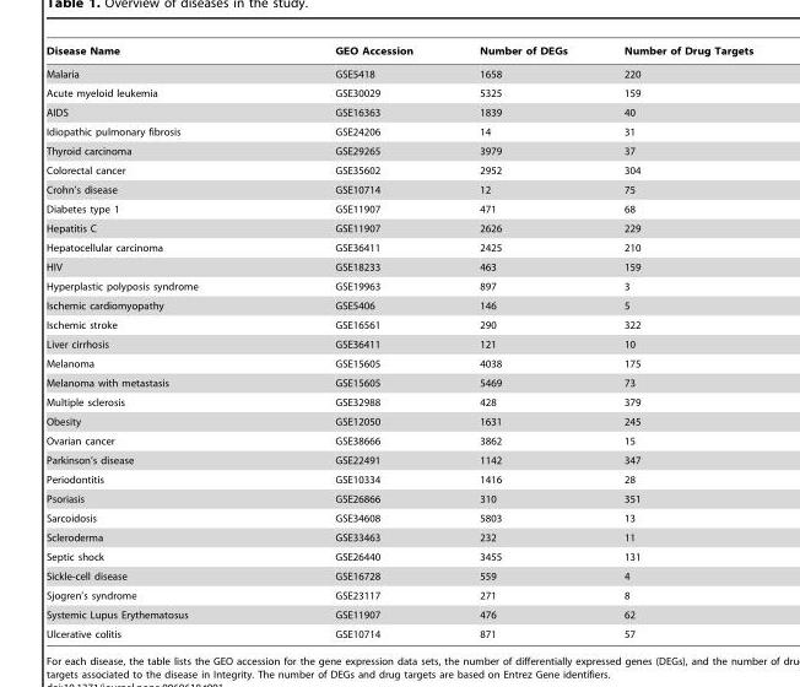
<table><thead><tr><td>Disease Name</td><td>GEO Accession</td><td>Number of DEGs</td><td>Number of Drug Targets</td></tr></thead><tbody><tr><td>Malaria</td><td>GSE5418</td><td>1658</td><td>220</td></tr><tr><td>Acute myeloid leukemia</td><td>GSE30029</td><td>5325</td><td>159</td></tr><tr><td>AIDS</td><td>GSE16363</td><td>1839</td><td>40</td></tr><tr><td>Idiopathic pulmonary fibrosis</td><td>GSE24206</td><td>14</td><td>31</td></tr><tr><td>Thyroid carcinoma</td><td>GSE29265</td><td>3979</td><td>37</td></tr><tr><td>Colorectal cancer</td><td>GSE35602</td><td>2952</td><td>304</td></tr><tr><td>Crohn’s disease</td><td>GSE10714</td><td>12</td><td>75</td></tr><tr><td>Diabetes type 1</td><td>GSE11907</td><td>471</td><td>68</td></tr><tr><td>Hepatitis C</td><td>GSE11907</td><td>2626</td><td>229</td></tr><tr><td>Hepatocellular carcinoma</td><td>GSE36411</td><td>2425</td><td>210</td></tr><tr><td>HIV</td><td>GSE18233</td><td>463</td><td>159</td></tr><tr><td>Hyperplastic polyposis syndrome</td><td>GSE19963</td><td>897</td><td>3</td></tr><tr><td>Ischemic cardiomyopathy</td><td>GSE5406</td><td>146</td><td>5</td></tr><tr><td>Ischemic stroke</td><td>GSE16561</td><td>290</td><td>322</td></tr><tr><td>Liver cirrhosis</td><td>GSE36411</td><td>121</td><td>10</td></tr><tr><td>Melanoma</td><td>GSE15605</td><td>4038</td><td>175</td></tr><tr><td>Melanoma with metastasis</td><td>GSE15605</td><td>5469</td><td>73</td></tr><tr><td>Multiple sclerosis</td><td>GSE32988</td><td>428</td><td>379</td></tr><tr><td>Obesity</td><td>GSE12050</td><td>1631</td><td>245</td></tr><tr><td>Ovarian cancer</td><td>GSE38666</td><td>3862</td><td>15</td></tr><tr><td>Parkinson’s disease</td><td>GSE22491</td><td>1142</td><td>347</td></tr><tr><td>Periodontitis</td><td>GSE10334</td><td>1416</td><td>28</td></tr><tr><td>Psoriasis</td><td>GSE26866</td><td>310</td><td>351</td></tr><tr><td>Sarcoidosis</td><td>GSE34608</td><td>5803</td><td>13</td></tr><tr><td>Scleroderma</td><td>GSE33463</td><td>232</td><td>11</td></tr><tr><td>Septic shock</td><td>GSE26440</td><td>3455</td><td>131</td></tr><tr><td>Sickle-cell disease</td><td>GSE16728</td><td>559</td><td>4</td></tr><tr><td>Sjogren’s syndrome</td><td>GSE23117</td><td>271</td><td>8</td></tr><tr><td>Systemic Lupus Erythematosus</td><td>GSE11907</td><td>476</td><td>62</td></tr><tr><td>Ulcerative colitis</td><td>GSE10714</td><td>871</td><td>57</td></tr></tbody></table>